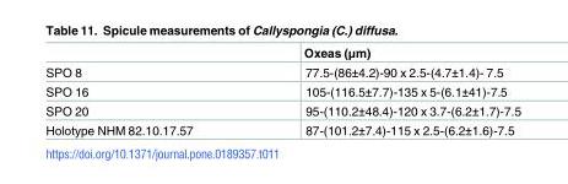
<table><thead><tr><td></td><td>Oxeas (μm)</td></tr></thead><tbody><tr><td>SPO 8</td><td>77.5-(86±4.2)-90 x 2.5-(4.7±1.4)- 7.5</td></tr><tr><td>SPO 16</td><td>105-(116.5±7.7)-135 x 5-(6.1±41)-7.5</td></tr><tr><td>SPO 20</td><td>95-(110.2±48.4)-120 x 3.7-(6.2±1.7)-7.5</td></tr><tr><td>Holotype NHM 82.10.17.57</td><td>87-(101.2±7.4)-115 x 2.5-(6.2±1.6)-7.5</td></tr></tbody></table>